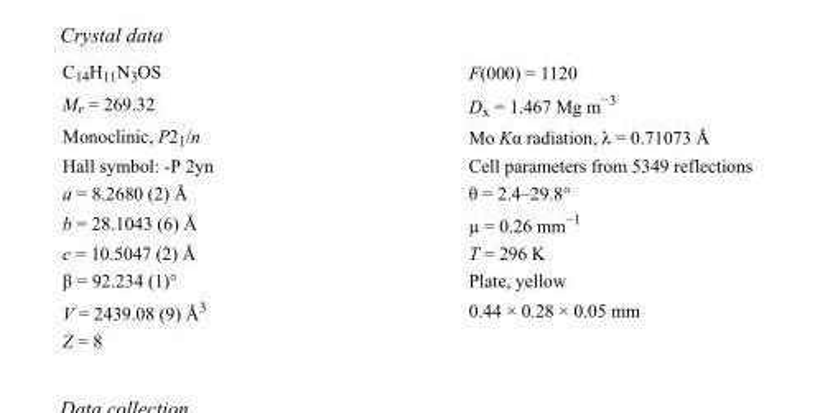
<table><tbody><tr><td>C<sub>14</sub>H<sub>11</sub>N<sub>3</sub>OS</td><td>F(000) = 1120</td></tr><tr><td>M<sub>r</sub> = 269.32</td><td>D<sub>x</sub> = 1.467 Mg m<sup>−3</sup></td></tr><tr><td>Monoclinic, P2<sub>1</sub>/n</td><td>Mo Kα radiation, λ = 0.71073 Å</td></tr><tr><td>Hall symbol: -P 2yn</td><td>Cell parameters from 5349 reflections</td></tr><tr><td>a = 8.2680 (2) Å</td><td>θ = 2.4–29.8°</td></tr><tr><td>b = 28.1043 (6) Å</td><td>µ = 0.26 mm<sup>−1</sup></td></tr><tr><td>c = 10.5047 (2) Å</td><td>T = 296 K</td></tr><tr><td>β = 92.234 (1)°</td><td>Plate, yellow</td></tr><tr><td>V = 2439.08 (9) Å<sup>3</sup></td><td>0.44 × 0.28 × 0.05 mm</td></tr><tr><td>Z = 8</td><td></td></tr></tbody></table>